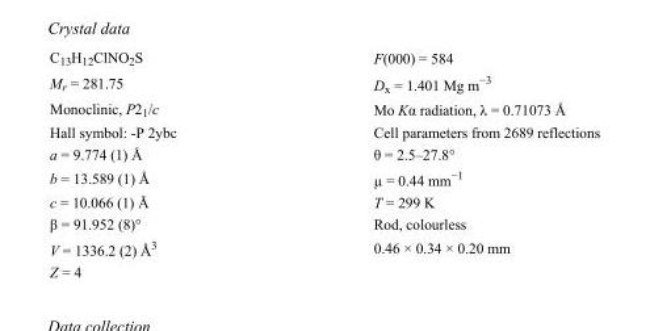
<table><tbody><tr><td>C<sub>13</sub>H<sub>12</sub>ClNO<sub>2</sub>S</td><td>F(000) = 584</td></tr><tr><td>M<sub>r</sub> = 281.75</td><td>D<sub>x</sub> = 1.401 Mg m<sup>−3</sup></td></tr><tr><td>Monoclinic, P2<sub>1</sub>/c</td><td>Mo Kα radiation, λ = 0.71073 Å</td></tr><tr><td>Hall symbol: -P 2ybc</td><td>Cell parameters from 2689 reflections</td></tr><tr><td>a = 9.774 (1) Å</td><td>θ = 2.5–27.8°</td></tr><tr><td>b = 13.589 (1) Å</td><td>µ = 0.44 mm<sup>−1</sup></td></tr><tr><td>c = 10.066 (1) Å</td><td>T = 299 K</td></tr><tr><td>β = 91.952 (8)°</td><td>Rod, colourless</td></tr><tr><td>V = 1336.2 (2) Å<sup>3</sup></td><td>0.46 × 0.34 × 0.20 mm</td></tr><tr><td>Z = 4</td><td></td></tr></tbody></table>